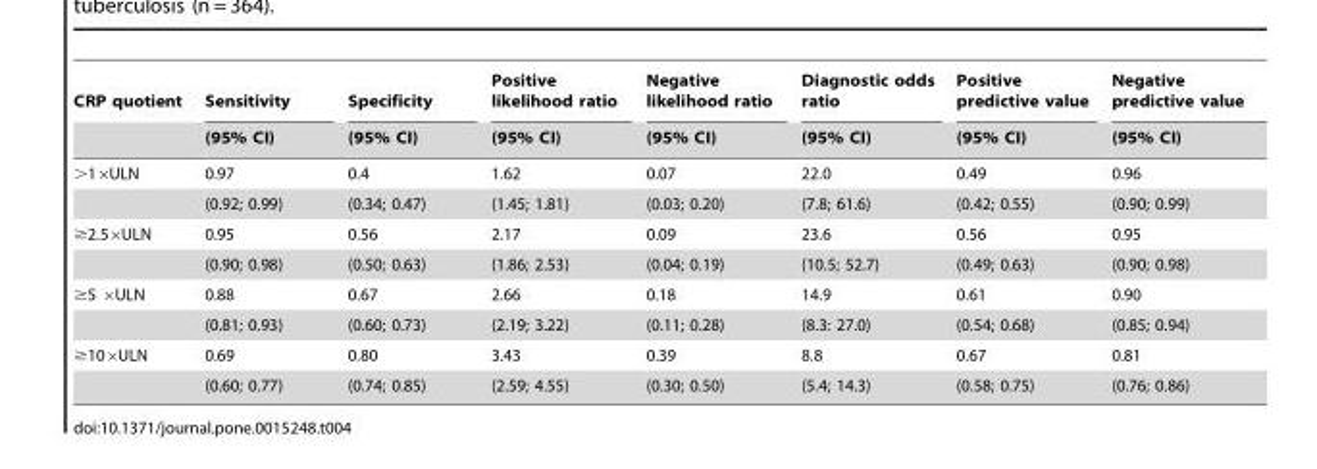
<table><thead><tr><td rowspan="2">CRP quotient</td><td rowspan="2">Sensitivity (95% CI)</td><td rowspan="2">Specificity (95% CI)</td><td rowspan="2">Positive likelihood ratio (95% CI)</td><td rowspan="2">Negative likelihood ratio (95% CI)</td><td rowspan="2">Diagnostic odds ratio (95% CI)</td><td rowspan="2">Positive predictive value (95% CI)</td><td rowspan="2">Negative predictive value (95% CI)</td></tr><tr></tr></thead><tbody><tr><td rowspan="2">&gt;1×ULN</td><td>0.97</td><td>0.4</td><td>1.62</td><td>0.07</td><td>22.0</td><td>0.49</td><td>0.96</td></tr><tr><td>(0.92; 0.99)</td><td>(0.34; 0.47)</td><td>(1.45; 1.81)</td><td>(0.03; 0.20)</td><td>(7.8; 61.6)</td><td>(0.42; 0.55)</td><td>(0.90; 0.99)</td></tr><tr><td rowspan="2">≥2.5×ULN</td><td>0.95</td><td>0.56</td><td>2.17</td><td>0.09</td><td>23.6</td><td>0.56</td><td>0.95</td></tr><tr><td>(0.90; 0.98)</td><td>(0.50; 0.63)</td><td>(1.86; 2.53)</td><td>(0.04; 0.19)</td><td>(10.5; 52.7)</td><td>(0.49; 0.63)</td><td>(0.90; 0.98)</td></tr><tr><td rowspan="2">≥5 ×ULN</td><td>0.88</td><td>0.67</td><td>2.66</td><td>0.18</td><td>14.9</td><td>0.61</td><td>0.90</td></tr><tr><td>(0.81; 0.93)</td><td>(0.60; 0.73)</td><td>(2.19; 3.22)</td><td>(0.11; 0.28)</td><td>(8.3: 27.0)</td><td>(0.54; 0.68)</td><td>(0.85; 0.94)</td></tr><tr><td rowspan="2">≥10×ULN</td><td>0.69</td><td>0.80</td><td>3.43</td><td>0.39</td><td>8.8</td><td>0.67</td><td>0.81</td></tr><tr><td>(0.60; 0.77)</td><td>(0.74; 0.85)</td><td>(2.59; 4.55)</td><td>(0.30; 0.50)</td><td>(5.4; 14.3)</td><td>(0.58; 0.75)</td><td>(0.76; 0.86)</td></tr></tbody></table>